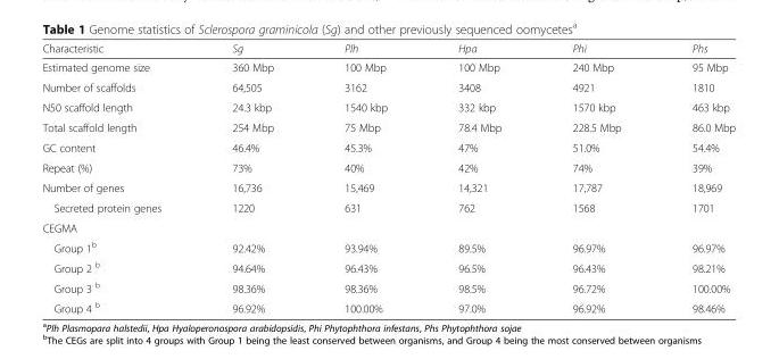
<table><thead><tr><td>Characteristic</td><td>Sg</td><td>Plh</td><td>Hpa</td><td>Phi</td><td>Phs</td></tr></thead><tbody><tr><td>Estimated genome size</td><td>360 Mbp</td><td>100 Mbp</td><td>100 Mbp</td><td>240 Mbp</td><td>95 Mbp</td></tr><tr><td>Number of scaffolds</td><td>64,505</td><td>3162</td><td>3408</td><td>4921</td><td>1810</td></tr><tr><td>N50 scaffold length</td><td>24.3 kbp</td><td>1540 kbp</td><td>332 kbp</td><td>1570 kbp</td><td>463 kbp</td></tr><tr><td>Total scaffold length</td><td>254 Mbp</td><td>75 Mbp</td><td>78.4 Mbp</td><td>228.5 Mbp</td><td>86.0 Mbp</td></tr><tr><td>GC content</td><td>46.4%</td><td>45.3%</td><td>47%</td><td>51.0%</td><td>54.4%</td></tr><tr><td>Repeat (%)</td><td>73%</td><td>40%</td><td>42%</td><td>74%</td><td>39%</td></tr><tr><td>Number of genes</td><td>16,736</td><td>15,469</td><td>14,321</td><td>17,787</td><td>18,969</td></tr><tr><td>Secreted protein genes</td><td>1220</td><td>631</td><td>762</td><td>1568</td><td>1701</td></tr><tr><td colspan="6">CEGMA</td></tr><tr><td>Group 1<sup>b</sup></td><td>92.42%</td><td>93.94%</td><td>89.5%</td><td>96.97%</td><td>96.97%</td></tr><tr><td>Group 2 <sup>b</sup></td><td>94.64%</td><td>96.43%</td><td>96.5%</td><td>96.43%</td><td>98.21%</td></tr><tr><td>Group 3 <sup>b</sup></td><td>98.36%</td><td>98.36%</td><td>98.5%</td><td>96.72%</td><td>100.00%</td></tr><tr><td>Group 4 <sup>b</sup></td><td>96.92%</td><td>100.00%</td><td>97.0%</td><td>96.92%</td><td>98.46%</td></tr></tbody></table>